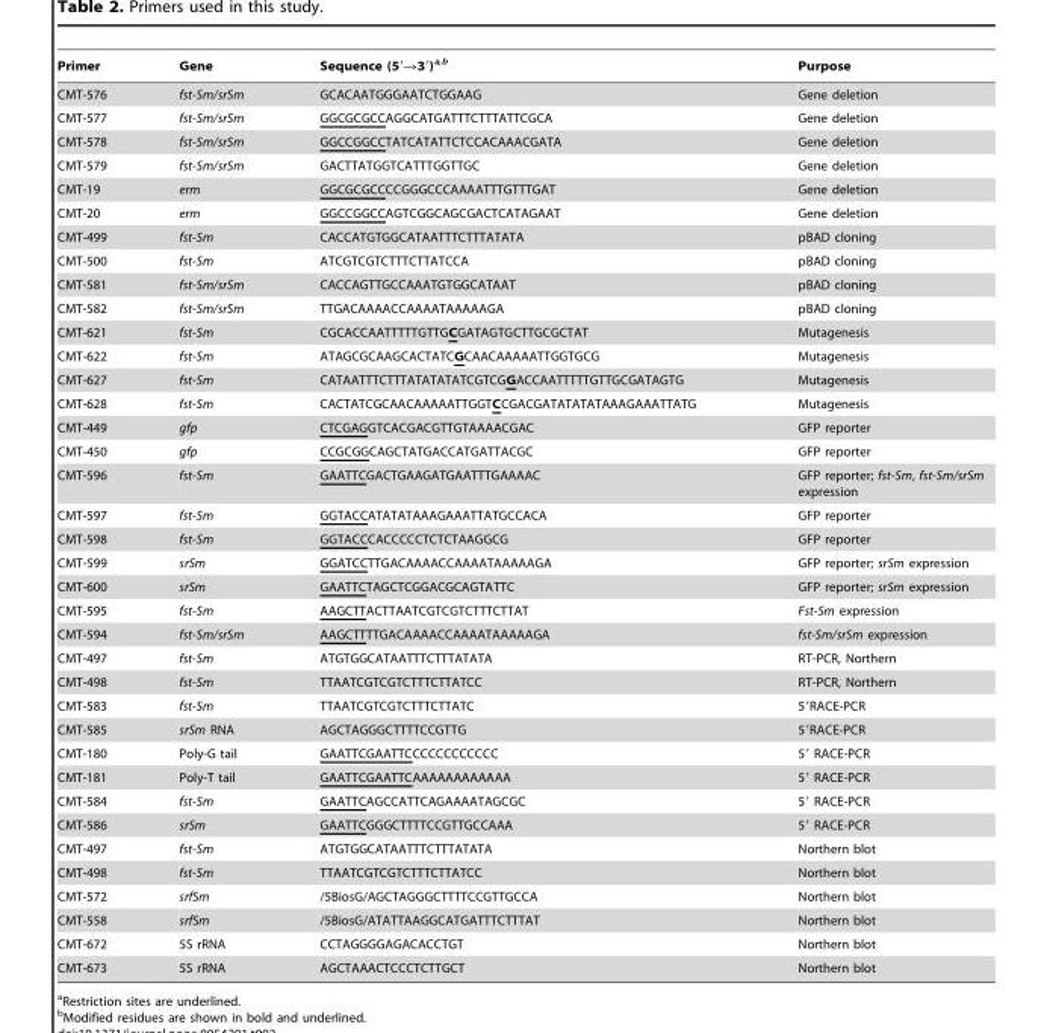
<table><thead><tr><td>Primer</td><td>Gene</td><td>Sequence (5′→3′)a,b</td><td>Purpose</td></tr></thead><tbody><tr><td>CMT-576</td><td>fst-Sm/srSm</td><td>GCACAATGGGAATCTGGAAG</td><td>Gene deletion</td></tr><tr><td>CMT-577</td><td>fst-Sm/srSm</td><td>GGCGCGCCAGGCATGATTTCTTTATTCGCA</td><td>Gene deletion</td></tr><tr><td>CMT-578</td><td>fst-Sm/srSm</td><td>GGCCGGCCTATCATATTCTCCACAAACGATA</td><td>Gene deletion</td></tr><tr><td>CMT-579</td><td>fst-Sm/srSm</td><td>GACTTATGGTCATTTGGTTGC</td><td>Gene deletion</td></tr><tr><td>CMT-19</td><td>erm</td><td>GGCGCGCCCCGGGCCCAAAATTTGTTTGAT</td><td>Gene deletion</td></tr><tr><td>CMT-20</td><td>erm</td><td>GGCCGGCCAGTCGGCAGCGACTCATAGAAT</td><td>Gene deletion</td></tr><tr><td>CMT-499</td><td>fst-Sm</td><td>CACCATGTGGCATAATTTCTTTATATA</td><td>pBAD cloning</td></tr><tr><td>CMT-500</td><td>fst-Sm</td><td>ATCGTCGTCTTTCTTATCCA</td><td>pBAD cloning</td></tr><tr><td>CMT-581</td><td>fst-Sm/srSm</td><td>CACCAGTTGCCAAATGTGGCATAAT</td><td>pBAD cloning</td></tr><tr><td>CMT-582</td><td>fst-Sm/srSm</td><td>TTGACAAAACCAAAATAAAAAGA</td><td>pBAD cloning</td></tr><tr><td>CMT-621</td><td>fst-Sm</td><td>CGCACCAATTTTTGTTGCGATAGTGCTTGCGCTAT</td><td>Mutagenesis</td></tr><tr><td>CMT-622</td><td>fst-Sm</td><td>ATAGCGCAAGCACTATCGCAACAAAAATTGGTGCG</td><td>Mutagenesis</td></tr><tr><td>CMT-627</td><td>fst-Sm</td><td>CATAATTTCTTTATATATATCGTCGGACCAATTTTTGTTGCGATAGTG</td><td>Mutagenesis</td></tr><tr><td>CMT-628</td><td>fst-Sm</td><td>CACTATCGCAACAAAAATTGGTCCGACGATATATATAAAGAAATTATG</td><td>Mutagenesis</td></tr><tr><td>CMT-449</td><td>gfp</td><td>CTCGAGGTCACGACGTTGTAAAACGAC</td><td>GFP reporter</td></tr><tr><td>CMT-450</td><td>gfp</td><td>CCGCGGCAGCTATGACCATGATTACGC</td><td>GFP reporter</td></tr><tr><td>CMT-596</td><td>fst-Sm</td><td>GAATTCGACTGAAGATGAATTTGAAAAC</td><td>GFP reporter; fst-Sm, fst-Sm/srSm expression</td></tr><tr><td>CMT-597</td><td>fst-Sm</td><td>GGTACCATATATAAAGAAATTATGCCACA</td><td>GFP reporter</td></tr><tr><td>CMT-598</td><td>fst-Sm</td><td>GGTACCCACCCCCTCTCTAAGGCG</td><td>GFP reporter</td></tr><tr><td>CMT-599</td><td>srSm</td><td>GGATCCTTGACAAAACCAAAATAAAAAGA</td><td>GFP reporter; srSm expression</td></tr><tr><td>CMT-600</td><td>srSm</td><td>GAATTCTAGCTCGGACGCAGTATTC</td><td>GFP reporter; srSm expression</td></tr><tr><td>CMT-595</td><td>fst-Sm</td><td>AAGCTTACTTAATCGTCGTCTTTCTTAT</td><td>Fst-Sm expression</td></tr><tr><td>CMT-594</td><td>fst-Sm/srSm</td><td>AAGCTTTTGACAAAACCAAAATAAAAAGA</td><td>fst-Sm/srSm expression</td></tr><tr><td>CMT-497</td><td>fst-Sm</td><td>ATGTGGCATAATTTCTTTATATA</td><td>RT-PCR, Northern</td></tr><tr><td>CMT-498</td><td>fst-Sm</td><td>TTAATCGTCGTCTTTCTTATCC</td><td>RT-PCR, Northern</td></tr><tr><td>CMT-583</td><td>fst-Sm</td><td>TTAATCGTCGTCTTTCTTATC</td><td>5′RACE-PCR</td></tr><tr><td>CMT-585</td><td>srSm RNA</td><td>AGCTAGGGCTTTTCCGTTG</td><td>5′RACE-PCR</td></tr><tr><td>CMT-180</td><td>Poly-G tail</td><td>GAATTCGAATTCCCCCCCCCCCC</td><td>5′ RACE-PCR</td></tr><tr><td>CMT-181</td><td>Poly-T tail</td><td>GAATTCGAATTCAAAAAAAAAAAA</td><td>5′ RACE-PCR</td></tr><tr><td>CMT-584</td><td>fst-Sm</td><td>GAATTCAGCCATTCAGAAAATAGCGC</td><td>5′ RACE-PCR</td></tr><tr><td>CMT-586</td><td>srSm</td><td>GAATTCGGGCTTTTCCGTTGCCAAA</td><td>5′ RACE-PCR</td></tr><tr><td>CMT-497</td><td>fst-Sm</td><td>ATGTGGCATAATTTCTTTATATA</td><td>Northern blot</td></tr><tr><td>CMT-498</td><td>fst-Sm</td><td>TTAATCGTCGTCTTTCTTATCC</td><td>Northern blot</td></tr><tr><td>CMT-572</td><td>srfSm</td><td>/5BiosG/AGCTAGGGCTTTTCCGTTGCCA</td><td>Northern blot</td></tr><tr><td>CMT-558</td><td>srfSm</td><td>/5BiosG/ATATTAAGGCATGATTTCTTTAT</td><td>Northern blot</td></tr><tr><td>CMT-672</td><td>5S rRNA</td><td>CCTAGGGGAGACACCTGT</td><td>Northern blot</td></tr><tr><td>CMT-673</td><td>5S rRNA</td><td>AGCTAAACTCCCTCTTGCT</td><td>Northern blot</td></tr></tbody></table>